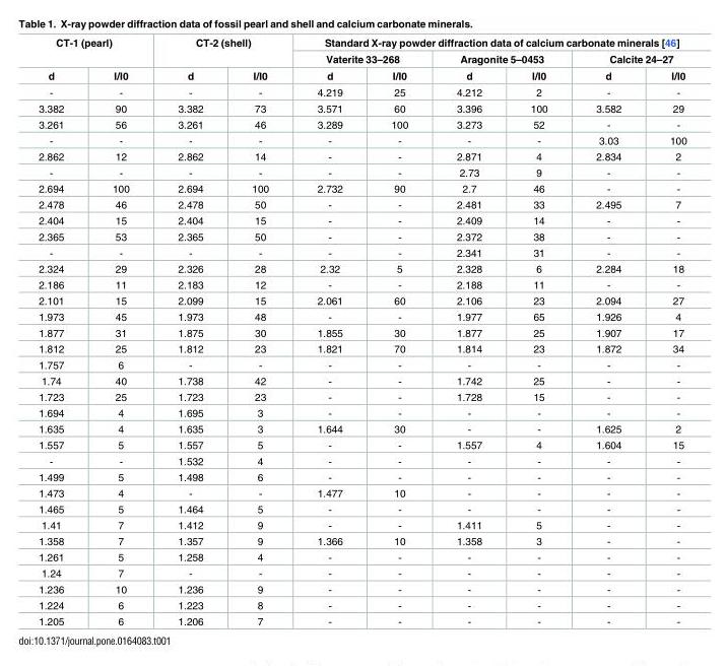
<table><thead><tr><td rowspan="2" colspan="2">CT-1 (pearl)</td><td rowspan="2" colspan="2">CT-2 (shell)</td><td colspan="6">Standard X-ray powder diffraction data of calcium carbonate minerals [46]</td></tr><tr><td colspan="2">Vaterite 33–268</td><td colspan="2">Aragonite 5–0453</td><td colspan="2">Calcite 24–27</td></tr><tr><td>d</td><td>I/I0</td><td>d</td><td>I/I0</td><td>d</td><td>I/I0</td><td>d</td><td>I/I0</td><td>d</td><td>I/I0</td></tr></thead><tbody><tr><td>-</td><td>-</td><td>-</td><td>-</td><td>4.219</td><td>25</td><td>4.212</td><td>2</td><td>-</td><td>-</td></tr><tr><td>3.382</td><td>90</td><td>3.382</td><td>73</td><td>3.571</td><td>60</td><td>3.396</td><td>100</td><td>3.582</td><td>29</td></tr><tr><td>3.261</td><td>56</td><td>3.261</td><td>46</td><td>3.289</td><td>100</td><td>3.273</td><td>52</td><td>-</td><td>-</td></tr><tr><td>-</td><td>-</td><td>-</td><td>-</td><td>-</td><td>-</td><td>-</td><td>-</td><td>3.03</td><td>100</td></tr><tr><td>2.862</td><td>12</td><td>2.862</td><td>14</td><td>-</td><td>-</td><td>2.871</td><td>4</td><td>2.834</td><td>2</td></tr><tr><td>-</td><td>-</td><td>-</td><td>-</td><td>-</td><td>-</td><td>2.73</td><td>9</td><td>-</td><td>-</td></tr><tr><td>2.694</td><td>100</td><td>2.694</td><td>100</td><td>2.732</td><td>90</td><td>2.7</td><td>46</td><td>-</td><td>-</td></tr><tr><td>2.478</td><td>46</td><td>2.478</td><td>50</td><td>-</td><td>-</td><td>2.481</td><td>33</td><td>2.495</td><td>7</td></tr><tr><td>2.404</td><td>15</td><td>2.404</td><td>15</td><td>-</td><td>-</td><td>2.409</td><td>14</td><td>-</td><td>-</td></tr><tr><td>2.365</td><td>53</td><td>2.365</td><td>50</td><td>-</td><td>-</td><td>2.372</td><td>38</td><td>-</td><td>-</td></tr><tr><td>-</td><td>-</td><td>-</td><td>-</td><td>-</td><td>-</td><td>2.341</td><td>31</td><td>-</td><td>-</td></tr><tr><td>2.324</td><td>29</td><td>2.326</td><td>28</td><td>2.32</td><td>5</td><td>2.328</td><td>6</td><td>2.284</td><td>18</td></tr><tr><td>2.186</td><td>11</td><td>2.183</td><td>12</td><td>-</td><td>-</td><td>2.188</td><td>11</td><td>-</td><td>-</td></tr><tr><td>2.101</td><td>15</td><td>2.099</td><td>15</td><td>2.061</td><td>60</td><td>2.106</td><td>23</td><td>2.094</td><td>27</td></tr><tr><td>1.973</td><td>45</td><td>1.973</td><td>48</td><td>-</td><td>-</td><td>1.977</td><td>65</td><td>1.926</td><td>4</td></tr><tr><td>1.877</td><td>31</td><td>1.875</td><td>30</td><td>1.855</td><td>30</td><td>1.877</td><td>25</td><td>1.907</td><td>17</td></tr><tr><td>1.812</td><td>25</td><td>1.812</td><td>23</td><td>1.821</td><td>70</td><td>1.814</td><td>23</td><td>1.872</td><td>34</td></tr><tr><td>1.757</td><td>6</td><td>-</td><td>-</td><td>-</td><td>-</td><td>-</td><td>-</td><td>-</td><td>-</td></tr><tr><td>1.74</td><td>40</td><td>1.738</td><td>42</td><td>-</td><td>-</td><td>1.742</td><td>25</td><td>-</td><td>-</td></tr><tr><td>1.723</td><td>25</td><td>1.723</td><td>23</td><td>-</td><td>-</td><td>1.728</td><td>15</td><td>-</td><td>-</td></tr><tr><td>1.694</td><td>4</td><td>1.695</td><td>3</td><td>-</td><td>-</td><td>-</td><td>-</td><td>-</td><td>-</td></tr><tr><td>1.635</td><td>4</td><td>1.635</td><td>3</td><td>1.644</td><td>30</td><td>-</td><td>-</td><td>1.625</td><td>2</td></tr><tr><td>1.557</td><td>5</td><td>1.557</td><td>5</td><td>-</td><td>-</td><td>1.557</td><td>4</td><td>1.604</td><td>15</td></tr><tr><td>-</td><td>-</td><td>1.532</td><td>4</td><td>-</td><td>-</td><td>-</td><td>-</td><td>-</td><td>-</td></tr><tr><td>1.499</td><td>5</td><td>1.498</td><td>6</td><td>-</td><td>-</td><td>-</td><td>-</td><td>-</td><td>-</td></tr><tr><td>1.473</td><td>4</td><td>-</td><td>-</td><td>1.477</td><td>10</td><td>-</td><td>-</td><td>-</td><td>-</td></tr><tr><td>1.465</td><td>5</td><td>1.464</td><td>5</td><td>-</td><td>-</td><td>-</td><td>-</td><td>-</td><td>-</td></tr><tr><td>1.41</td><td>7</td><td>1.412</td><td>9</td><td>-</td><td>-</td><td>1.411</td><td>5</td><td>-</td><td>-</td></tr><tr><td>1.358</td><td>7</td><td>1.357</td><td>9</td><td>1.366</td><td>10</td><td>1.358</td><td>3</td><td>-</td><td>-</td></tr><tr><td>1.261</td><td>5</td><td>1.258</td><td>4</td><td>-</td><td>-</td><td>-</td><td>-</td><td>-</td><td>-</td></tr><tr><td>1.24</td><td>7</td><td>-</td><td>-</td><td>-</td><td>-</td><td>-</td><td>-</td><td>-</td><td>-</td></tr><tr><td>1.236</td><td>10</td><td>1.236</td><td>9</td><td>-</td><td>-</td><td>-</td><td>-</td><td>-</td><td>-</td></tr><tr><td>1.224</td><td>6</td><td>1.223</td><td>8</td><td>-</td><td>-</td><td>-</td><td>-</td><td>-</td><td>-</td></tr><tr><td>1.205</td><td>6</td><td>1.206</td><td>7</td><td>-</td><td>-</td><td>-</td><td>-</td><td>-</td><td>-</td></tr></tbody></table>